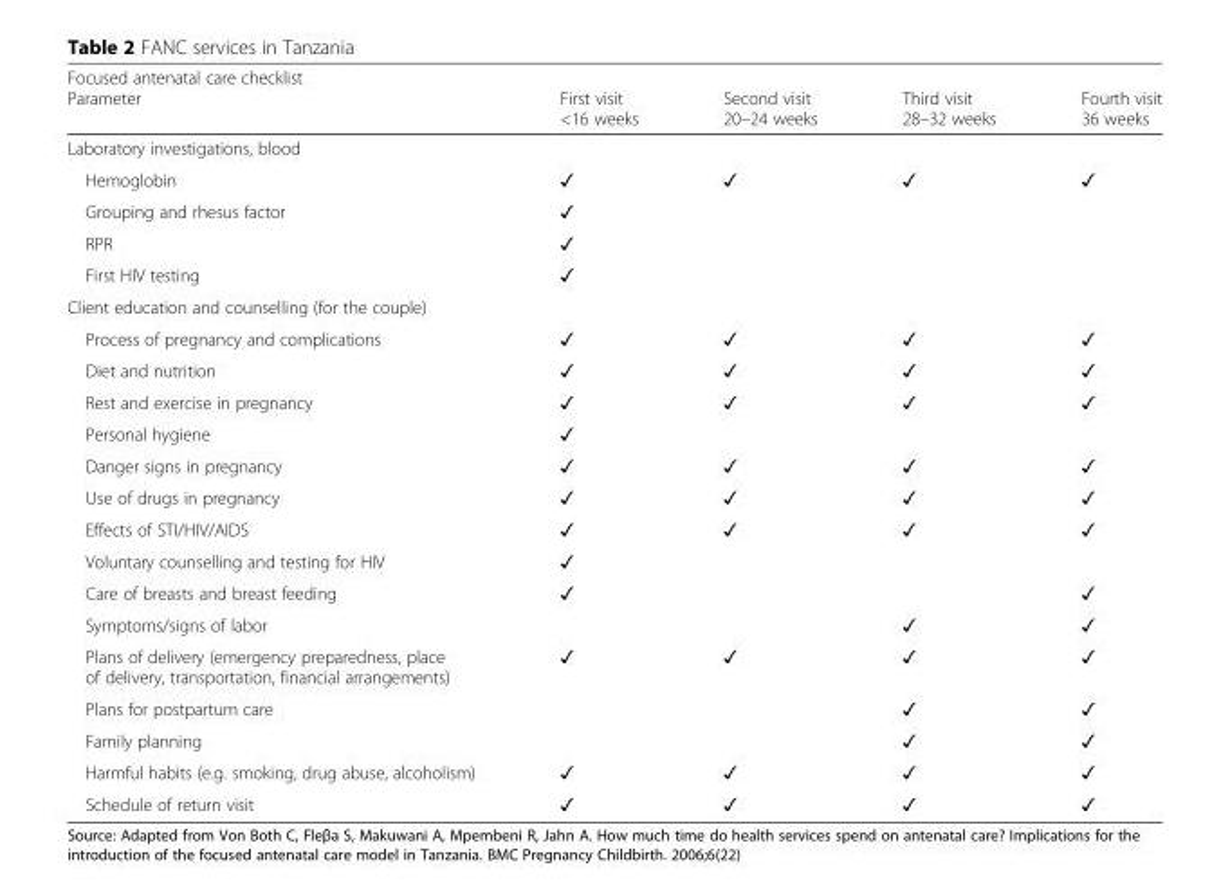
<table><thead><tr><td colspan="5">Focused antenatal care checklist</td></tr><tr><td>Parameter</td><td>First visit &lt;16 weeks</td><td>Second visit 20–24 weeks</td><td>Third visit 28–32 weeks</td><td>Fourth visit 36 weeks</td></tr></thead><tbody><tr><td colspan="5">Laboratory investigations, blood</td></tr><tr><td>Hemoglobin</td><td>✓</td><td>✓</td><td>✓</td><td>✓</td></tr><tr><td>Grouping and rhesus factor</td><td>✓</td><td></td><td></td><td></td></tr><tr><td>RPR</td><td>✓</td><td></td><td></td><td></td></tr><tr><td>First HIV testing</td><td>✓</td><td></td><td></td><td></td></tr><tr><td colspan="5">Client education and counselling (for the couple)</td></tr><tr><td>Process of pregnancy and complications</td><td>✓</td><td>✓</td><td>✓</td><td>✓</td></tr><tr><td>Diet and nutrition</td><td>✓</td><td>✓</td><td>✓</td><td>✓</td></tr><tr><td>Rest and exercise in pregnancy</td><td>✓</td><td>✓</td><td>✓</td><td>✓</td></tr><tr><td>Personal hygiene</td><td>✓</td><td></td><td></td><td></td></tr><tr><td>Danger signs in pregnancy</td><td>✓</td><td>✓</td><td>✓</td><td>✓</td></tr><tr><td>Use of drugs in pregnancy</td><td>✓</td><td>✓</td><td>✓</td><td>✓</td></tr><tr><td>Effects of STI/HIV/AIDS</td><td>✓</td><td>✓</td><td>✓</td><td>✓</td></tr><tr><td>Voluntary counselling and testing for HIV</td><td>✓</td><td></td><td></td><td></td></tr><tr><td>Care of breasts and breast feeding</td><td>✓</td><td></td><td></td><td>✓</td></tr><tr><td>Symptoms/signs of labor</td><td></td><td></td><td>✓</td><td>✓</td></tr><tr><td>Plans of delivery (emergency preparedness, place of delivery, transportation, financial arrangements)</td><td>✓</td><td>✓</td><td>✓</td><td>✓</td></tr><tr><td>Plans for postpartum care</td><td></td><td></td><td>✓</td><td>✓</td></tr><tr><td>Family planning</td><td></td><td></td><td>✓</td><td>✓</td></tr><tr><td>Harmful habits (e.g. smoking, drug abuse, alcoholism)</td><td>✓</td><td>✓</td><td>✓</td><td>✓</td></tr><tr><td>Schedule of return visit</td><td>✓</td><td>✓</td><td>✓</td><td>✓</td></tr></tbody></table>